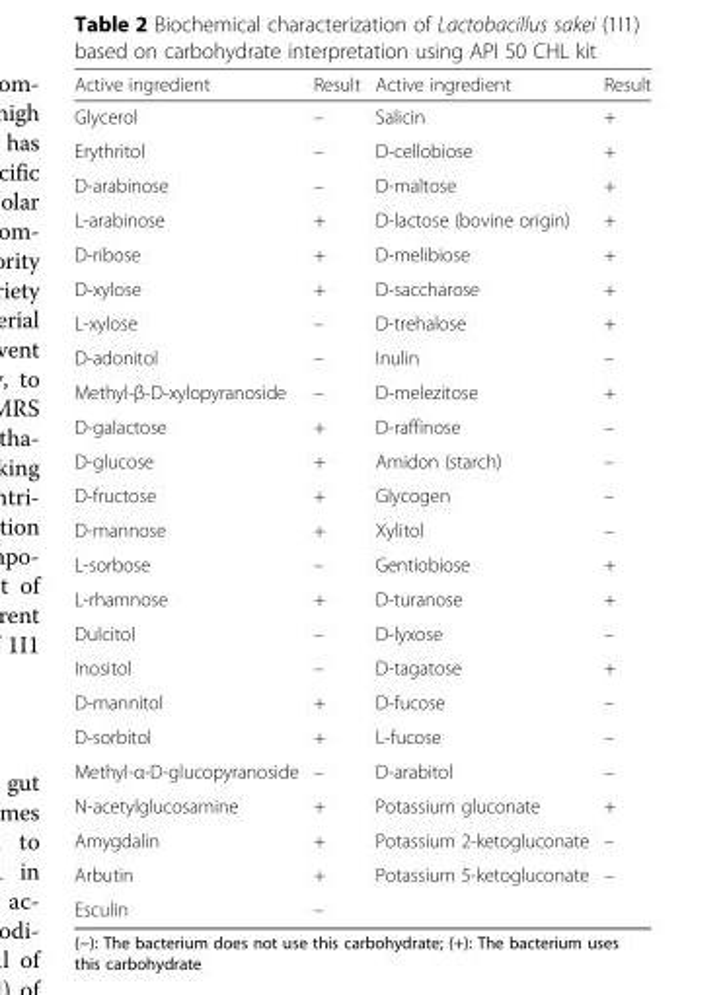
<table><thead><tr><td>Active ingredient</td><td>Result</td><td>Active ingredient</td><td>Result</td></tr></thead><tbody><tr><td>Glycerol</td><td>–</td><td>Salicin</td><td>+</td></tr><tr><td>Erythritol</td><td>–</td><td>D-cellobiose</td><td>+</td></tr><tr><td>D-arabinose</td><td>–</td><td>D-maltose</td><td>+</td></tr><tr><td>L-arabinose</td><td>+</td><td>D-lactose (bovine origin)</td><td>+</td></tr><tr><td>D-ribose</td><td>+</td><td>D-melibiose</td><td>+</td></tr><tr><td>D-xylose</td><td>+</td><td>D-saccharose</td><td>+</td></tr><tr><td>L-xylose</td><td>–</td><td>D-trehalose</td><td>+</td></tr><tr><td>D-adonitol</td><td>–</td><td>Inulin</td><td>–</td></tr><tr><td>Methyl-β-D-xylopyranoside</td><td>–</td><td>D-melezitose</td><td>+</td></tr><tr><td>D-galactose</td><td>+</td><td>D-raffinose</td><td>–</td></tr><tr><td>D-glucose</td><td>+</td><td>Amidon (starch)</td><td>–</td></tr><tr><td>D-fructose</td><td>+</td><td>Glycogen</td><td>–</td></tr><tr><td>D-mannose</td><td>+</td><td>Xylitol</td><td>–</td></tr><tr><td>L-sorbose</td><td>–</td><td>Gentiobiose</td><td>+</td></tr><tr><td>L-rhamnose</td><td>+</td><td>D-turanose</td><td>+</td></tr><tr><td>Dulcitol</td><td>–</td><td>D-lyxose</td><td>–</td></tr><tr><td>Inositol</td><td>–</td><td>D-tagatose</td><td>+</td></tr><tr><td>D-mannitol</td><td>+</td><td>D-fucose</td><td>–</td></tr><tr><td>D-sorbitol</td><td>+</td><td>L-fucose</td><td>–</td></tr><tr><td>Methyl-α-D-glucopyranoside</td><td>–</td><td>D-arabitol</td><td>–</td></tr><tr><td>N-acetylglucosamine</td><td>+</td><td>Potassium gluconate</td><td>+</td></tr><tr><td>Amygdalin</td><td>+</td><td>Potassium 2-ketogluconate</td><td>–</td></tr><tr><td>Arbutin</td><td>+</td><td>Potassium 5-ketogluconate</td><td>–</td></tr><tr><td>Esculin</td><td>–</td><td></td><td></td></tr></tbody></table>